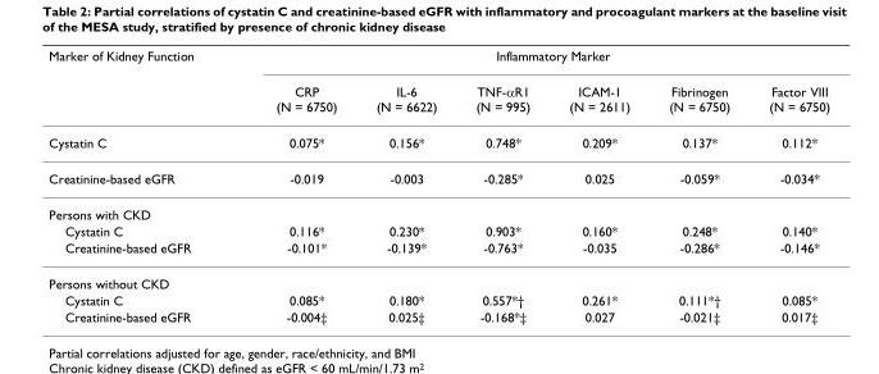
<table><thead><tr><td rowspan="2">Marker of Kidney Function</td><td colspan="6">Inflammatory Marker</td></tr><tr><td>CRP (N = 6750)</td><td>IL-6 (N = 6622)</td><td>TNF-αR1 (N = 995)</td><td>ICAM-1 (N = 2611)</td><td>Fibrinogen (N = 6750)</td><td>Factor VIII (N = 6750)</td></tr></thead><tbody><tr><td>Cystatin C</td><td>0.075*</td><td>0.156*</td><td>0.748*</td><td>0.209*</td><td>0.137*</td><td>0.112*</td></tr><tr><td>Creatinine-based eGFR</td><td>-0.019</td><td>-0.003</td><td>-0.285*</td><td>0.025</td><td>-0.059*</td><td>-0.034*</td></tr><tr><td colspan="7">Persons with CKD</td></tr><tr><td>Cystatin C</td><td>0.116*</td><td>0.230*</td><td>0.903*</td><td>0.160*</td><td>0.248*</td><td>0.140*</td></tr><tr><td>Creatinine-based eGFR</td><td>-0.101*</td><td>-0.139*</td><td>-0.763*</td><td>-0.035</td><td>-0.286*</td><td>-0.146*</td></tr><tr><td colspan="7">Persons without CKD</td></tr><tr><td>Cystatin C</td><td>0.085*</td><td>0.180*</td><td>0.557*†</td><td>0.261*</td><td>0.111*†</td><td>0.085*</td></tr><tr><td>Creatinine-based eGFR</td><td>-0.004‡</td><td>0.025‡</td><td>-0.168*‡</td><td>0.027</td><td>-0.021‡</td><td>0.017‡</td></tr></tbody></table>